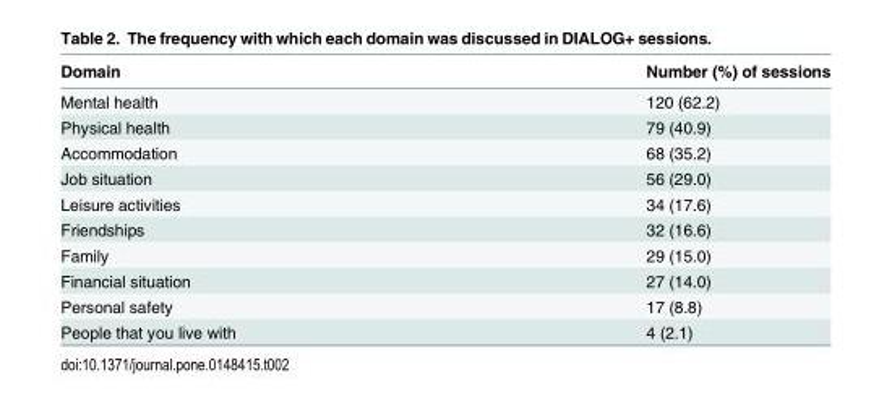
<table><thead><tr><td>Domain</td><td>Number (%) of sessions</td></tr></thead><tbody><tr><td>Mental health</td><td>120 (62.2)</td></tr><tr><td>Physical health</td><td>79 (40.9)</td></tr><tr><td>Accommodation</td><td>68 (35.2)</td></tr><tr><td>Job situation</td><td>56 (29.0)</td></tr><tr><td>Leisure activities</td><td>34 (17.6)</td></tr><tr><td>Friendships</td><td>32 (16.6)</td></tr><tr><td>Family</td><td>29 (15.0)</td></tr><tr><td>Financial situation</td><td>27 (14.0)</td></tr><tr><td>Personal safety</td><td>17 (8.8)</td></tr><tr><td>People that you live with</td><td>4 (2.1)</td></tr></tbody></table>